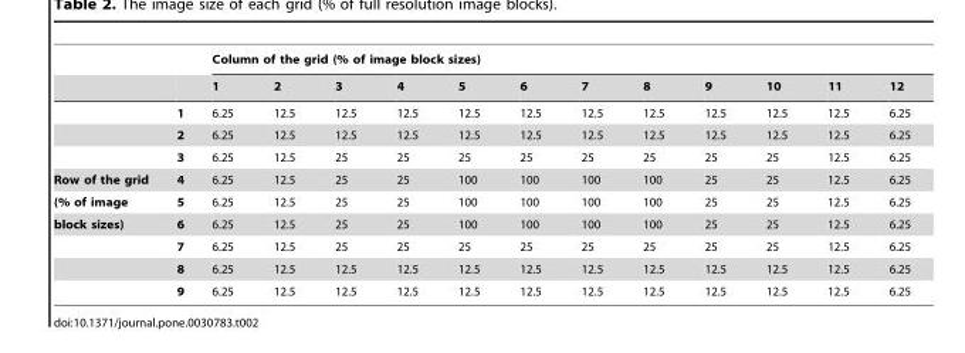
<table><thead><tr><td rowspan="2"></td><td rowspan="2"></td><td colspan="12">Column of the grid (% of image block sizes)</td></tr><tr><td>1</td><td>2</td><td>3</td><td>4</td><td>5</td><td>6</td><td>7</td><td>8</td><td>9</td><td>10</td><td>11</td><td>12</td></tr></thead><tbody><tr><td></td><td>1</td><td>6.25</td><td>12.5</td><td>12.5</td><td>12.5</td><td>12.5</td><td>12.5</td><td>12.5</td><td>12.5</td><td>12.5</td><td>12.5</td><td>12.5</td><td>6.25</td></tr><tr><td></td><td>2</td><td>6.25</td><td>12.5</td><td>12.5</td><td>12.5</td><td>12.5</td><td>12.5</td><td>12.5</td><td>12.5</td><td>12.5</td><td>12.5</td><td>12.5</td><td>6.25</td></tr><tr><td></td><td>3</td><td>6.25</td><td>12.5</td><td>25</td><td>25</td><td>25</td><td>25</td><td>25</td><td>25</td><td>25</td><td>25</td><td>12.5</td><td>6.25</td></tr><tr><td>Row of the grid</td><td>4</td><td>6.25</td><td>12.5</td><td>25</td><td>25</td><td>100</td><td>100</td><td>100</td><td>100</td><td>25</td><td>25</td><td>12.5</td><td>6.25</td></tr><tr><td>(% of image</td><td>5</td><td>6.25</td><td>12.5</td><td>25</td><td>25</td><td>100</td><td>100</td><td>100</td><td>100</td><td>25</td><td>25</td><td>12.5</td><td>6.25</td></tr><tr><td rowspan="4">block sizes)</td><td>6</td><td>6.25</td><td>12.5</td><td>25</td><td>25</td><td>100</td><td>100</td><td>100</td><td>100</td><td>25</td><td>25</td><td>12.5</td><td>6.25</td></tr><tr><td>7</td><td>6.25</td><td>12.5</td><td>25</td><td>25</td><td>25</td><td>25</td><td>25</td><td>25</td><td>25</td><td>25</td><td>12.5</td><td>6.25</td></tr><tr><td>8</td><td>6.25</td><td>12.5</td><td>12.5</td><td>12.5</td><td>12.5</td><td>12.5</td><td>12.5</td><td>12.5</td><td>12.5</td><td>12.5</td><td>12.5</td><td>6.25</td></tr><tr><td>9</td><td>6.25</td><td>12.5</td><td>12.5</td><td>12.5</td><td>12.5</td><td>12.5</td><td>12.5</td><td>12.5</td><td>12.5</td><td>12.5</td><td>12.5</td><td>6.25</td></tr></tbody></table>